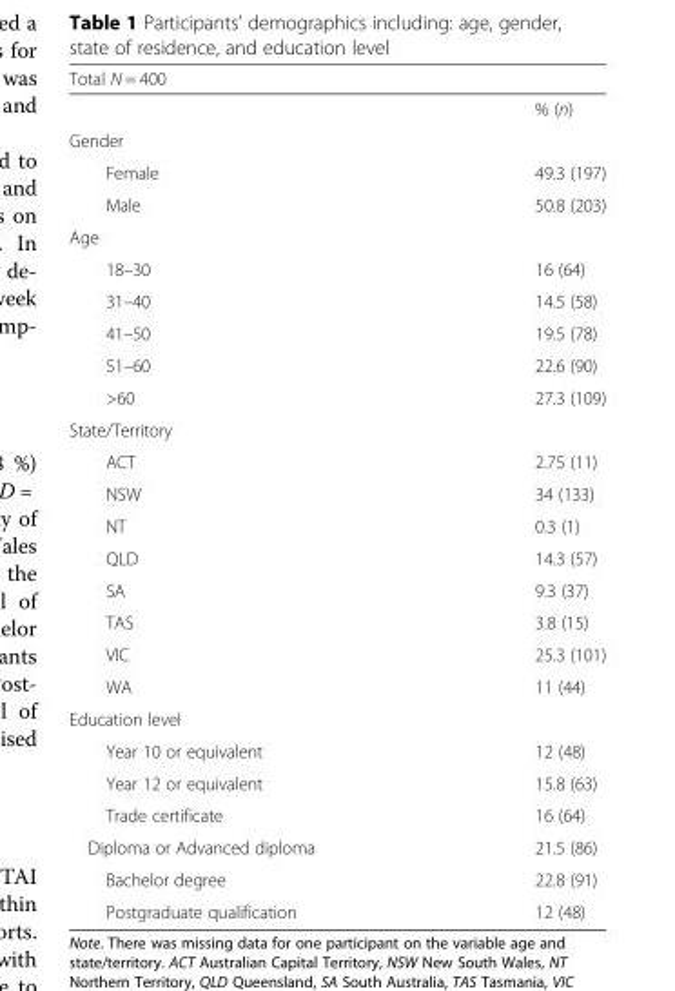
<table><thead><tr><td colspan="2">Total N = 400</td></tr><tr><td></td><td>% (n)</td></tr></thead><tbody><tr><td colspan="2">Gender</td></tr><tr><td>Female</td><td>49.3 (197)</td></tr><tr><td>Male</td><td>50.8 (203)</td></tr><tr><td colspan="2">Age</td></tr><tr><td>18–30</td><td>16 (64)</td></tr><tr><td>31–40</td><td>14.5 (58)</td></tr><tr><td>41–50</td><td>19.5 (78)</td></tr><tr><td>51–60</td><td>22.6 (90)</td></tr><tr><td>&gt;60</td><td>27.3 (109)</td></tr><tr><td colspan="2">State/Territory</td></tr><tr><td>ACT</td><td>2.75 (11)</td></tr><tr><td>NSW</td><td>34 (133)</td></tr><tr><td>NT</td><td>0.3 (1)</td></tr><tr><td>QLD</td><td>14.3 (57)</td></tr><tr><td>SA</td><td>9.3 (37)</td></tr><tr><td>TAS</td><td>3.8 (15)</td></tr><tr><td>VIC</td><td>25.3 (101)</td></tr><tr><td>WA</td><td>11 (44)</td></tr><tr><td colspan="2">Education level</td></tr><tr><td>Year 10 or equivalent</td><td>12 (48)</td></tr><tr><td>Year 12 or equivalent</td><td>15.8 (63)</td></tr><tr><td>Trade certificate</td><td>16 (64)</td></tr><tr><td>Diploma or Advanced diploma</td><td>21.5 (86)</td></tr><tr><td>Bachelor degree</td><td>22.8 (91)</td></tr><tr><td>Postgraduate qualification</td><td>12 (48)</td></tr></tbody></table>